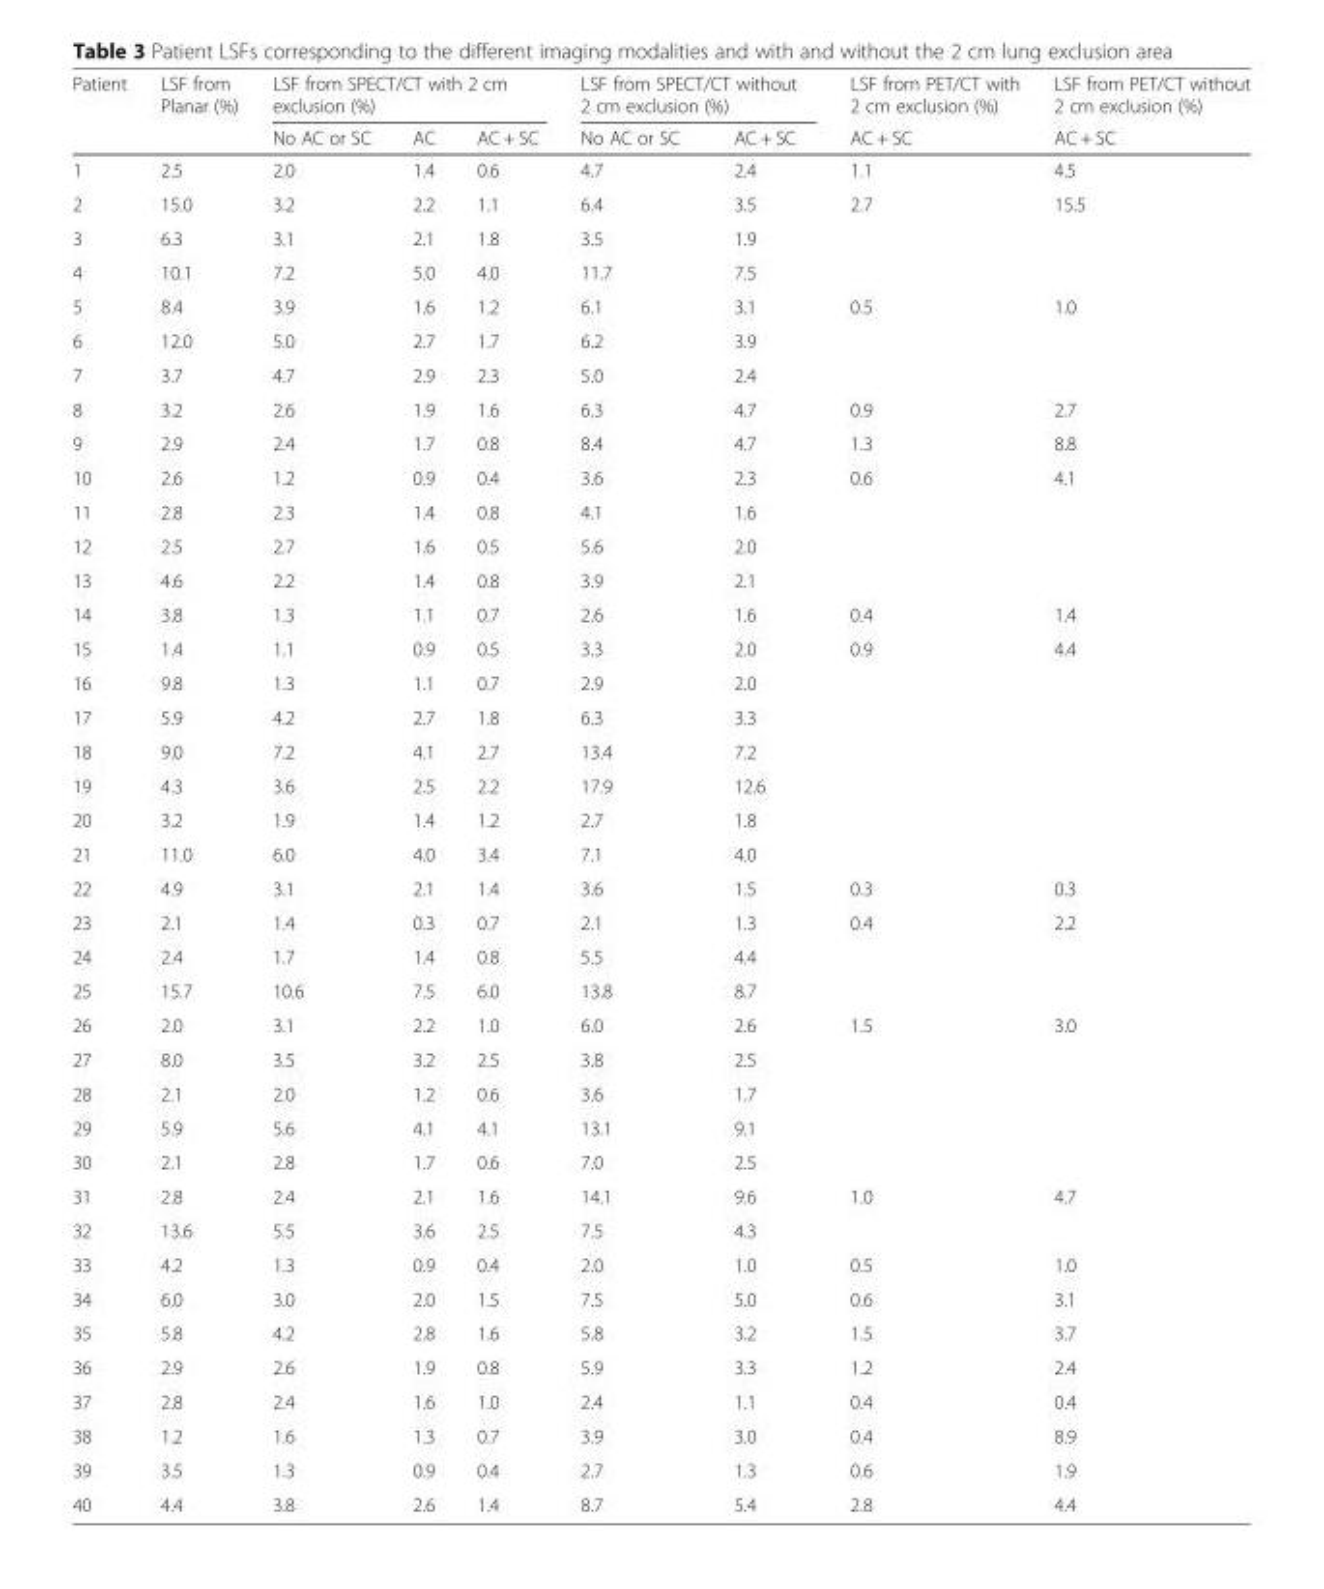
<table><thead><tr><td rowspan="2">Patient</td><td rowspan="2">LSF from Planar (%)</td><td colspan="3">LSF from SPECT/CT with 2 cm exclusion (%)</td><td colspan="2">LSF from SPECT/CT without 2 cm exclusion (%)</td><td rowspan="2">LSF from PET/CT with 2 cm exclusion (%) AC + SC</td><td rowspan="2">LSF from PET/CT without 2 cm exclusion (%) AC + SC</td></tr><tr><td>No AC or SC</td><td>AC</td><td>AC + SC</td><td>No AC or SC</td><td>AC + SC</td></tr></thead><tbody><tr><td>1</td><td>2.5</td><td>2.0</td><td>1.4</td><td>0.6</td><td>4.7</td><td>2.4</td><td>1.1</td><td>4.5</td></tr><tr><td>2</td><td>15.0</td><td>3.2</td><td>2.2</td><td>1.1</td><td>6.4</td><td>3.5</td><td>2.7</td><td>15.5</td></tr><tr><td>3</td><td>6.3</td><td>3.1</td><td>2.1</td><td>1.8</td><td>3.5</td><td>1.9</td><td></td><td></td></tr><tr><td>4</td><td>10.1</td><td>7.2</td><td>5.0</td><td>4.0</td><td>11.7</td><td>7.5</td><td></td><td></td></tr><tr><td>5</td><td>8.4</td><td>3.9</td><td>1.6</td><td>1.2</td><td>6.1</td><td>3.1</td><td>0.5</td><td>1.0</td></tr><tr><td>6</td><td>12.0</td><td>5.0</td><td>2.7</td><td>1.7</td><td>6.2</td><td>3.9</td><td></td><td></td></tr><tr><td>7</td><td>3.7</td><td>4.7</td><td>2.9</td><td>2.3</td><td>5.0</td><td>2.4</td><td></td><td></td></tr><tr><td>8</td><td>3.2</td><td>2.6</td><td>1.9</td><td>1.6</td><td>6.3</td><td>4.7</td><td>0.9</td><td>2.7</td></tr><tr><td>9</td><td>2.9</td><td>2.4</td><td>1.7</td><td>0.8</td><td>8.4</td><td>4.7</td><td>1.3</td><td>8.8</td></tr><tr><td>10</td><td>2.6</td><td>1.2</td><td>0.9</td><td>0.4</td><td>3.6</td><td>2.3</td><td>0.6</td><td>4.1</td></tr><tr><td>11</td><td>2.8</td><td>2.3</td><td>1.4</td><td>0.8</td><td>4.1</td><td>1.6</td><td></td><td></td></tr><tr><td>12</td><td>2.5</td><td>2.7</td><td>1.6</td><td>0.5</td><td>5.6</td><td>2.0</td><td></td><td></td></tr><tr><td>13</td><td>4.6</td><td>2.2</td><td>1.4</td><td>0.8</td><td>3.9</td><td>2.1</td><td></td><td></td></tr><tr><td>14</td><td>3.8</td><td>1.3</td><td>1.1</td><td>0.7</td><td>2.6</td><td>1.6</td><td>0.4</td><td>1.4</td></tr><tr><td>15</td><td>1.4</td><td>1.1</td><td>0.9</td><td>0.5</td><td>3.3</td><td>2.0</td><td>0.9</td><td>4.4</td></tr><tr><td>16</td><td>9.8</td><td>1.3</td><td>1.1</td><td>0.7</td><td>2.9</td><td>2.0</td><td></td><td></td></tr><tr><td>17</td><td>5.9</td><td>4.2</td><td>2.7</td><td>1.8</td><td>6.3</td><td>3.3</td><td></td><td></td></tr><tr><td>18</td><td>9.0</td><td>7.2</td><td>4.1</td><td>2.7</td><td>13.4</td><td>7.2</td><td></td><td></td></tr><tr><td>19</td><td>4.3</td><td>3.6</td><td>2.5</td><td>2.2</td><td>17.9</td><td>12.6</td><td></td><td></td></tr><tr><td>20</td><td>3.2</td><td>1.9</td><td>1.4</td><td>1.2</td><td>2.7</td><td>1.8</td><td></td><td></td></tr><tr><td>21</td><td>11.0</td><td>6.0</td><td>4.0</td><td>3.4</td><td>7.1</td><td>4.0</td><td></td><td></td></tr><tr><td>22</td><td>4.9</td><td>3.1</td><td>2.1</td><td>1.4</td><td>3.6</td><td>1.5</td><td>0.3</td><td>0.3</td></tr><tr><td>23</td><td>2.1</td><td>1.4</td><td>0.3</td><td>0.7</td><td>2.1</td><td>1.3</td><td>0.4</td><td>2.2</td></tr><tr><td>24</td><td>2.4</td><td>1.7</td><td>1.4</td><td>0.8</td><td>5.5</td><td>4.4</td><td></td><td></td></tr><tr><td>25</td><td>15.7</td><td>10.6</td><td>7.5</td><td>6.0</td><td>13.8</td><td>8.7</td><td></td><td></td></tr><tr><td>26</td><td>2.0</td><td>3.1</td><td>2.2</td><td>1.0</td><td>6.0</td><td>2.6</td><td>1.5</td><td>3.0</td></tr><tr><td>27</td><td>8.0</td><td>3.5</td><td>3.2</td><td>2.5</td><td>3.8</td><td>2.5</td><td></td><td></td></tr><tr><td>28</td><td>2.1</td><td>2.0</td><td>1.2</td><td>0.6</td><td>3.6</td><td>1.7</td><td></td><td></td></tr><tr><td>29</td><td>5.9</td><td>5.6</td><td>4.1</td><td>4.1</td><td>13.1</td><td>9.1</td><td></td><td></td></tr><tr><td>30</td><td>2.1</td><td>2.8</td><td>1.7</td><td>0.6</td><td>7.0</td><td>2.5</td><td></td><td></td></tr><tr><td>31</td><td>2.8</td><td>2.4</td><td>2.1</td><td>1.6</td><td>14.1</td><td>9.6</td><td>1.0</td><td>4.7</td></tr><tr><td>32</td><td>13.6</td><td>5.5</td><td>3.6</td><td>2.5</td><td>7.5</td><td>4.3</td><td></td><td></td></tr><tr><td>33</td><td>4.2</td><td>1.3</td><td>0.9</td><td>0.4</td><td>2.0</td><td>1.0</td><td>0.5</td><td>1.0</td></tr><tr><td>34</td><td>6.0</td><td>3.0</td><td>2.0</td><td>1.5</td><td>7.5</td><td>5.0</td><td>0.6</td><td>3.1</td></tr><tr><td>35</td><td>5.8</td><td>4.2</td><td>2.8</td><td>1.6</td><td>5.8</td><td>3.2</td><td>1.5</td><td>3.7</td></tr><tr><td>36</td><td>2.9</td><td>2.6</td><td>1.9</td><td>0.8</td><td>5.9</td><td>3.3</td><td>1.2</td><td>2.4</td></tr><tr><td>37</td><td>2.8</td><td>2.4</td><td>1.6</td><td>1.0</td><td>2.4</td><td>1.1</td><td>0.4</td><td>0.4</td></tr><tr><td>38</td><td>1.2</td><td>1.6</td><td>1.3</td><td>0.7</td><td>3.9</td><td>3.0</td><td>0.4</td><td>8.9</td></tr><tr><td>39</td><td>3.5</td><td>1.3</td><td>0.9</td><td>0.4</td><td>2.7</td><td>1.3</td><td>0.6</td><td>1.9</td></tr><tr><td>40</td><td>4.4</td><td>3.8</td><td>2.6</td><td>1.4</td><td>8.7</td><td>5.4</td><td>2.8</td><td>4.4</td></tr></tbody></table>